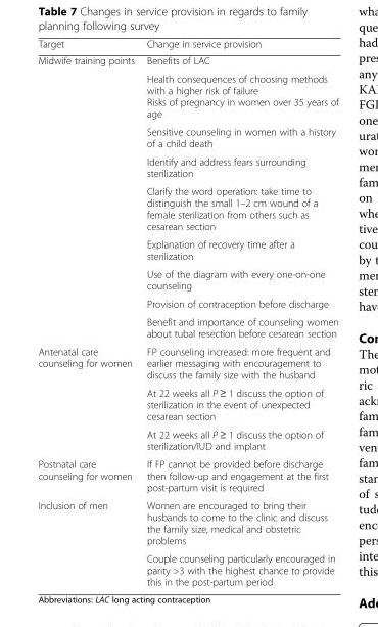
<table><thead><tr><td>Target</td><td>Change in service provision</td></tr></thead><tbody><tr><td rowspan="9">Midwife training points</td><td>Benefits of LAC</td></tr><tr><td>Health consequences of choosing methods with a higher risk of failure Risks of pregnancy in women over 35 years of age</td></tr><tr><td>Sensitive counseling in women with a history of a child death</td></tr><tr><td>Identify and address fears surrounding sterilization</td></tr><tr><td>Clarify the word operation: take time to distinguish the small 1–2 cm wound of a female sterilization from others such as cesarean section</td></tr><tr><td>Explanation of recovery time after a sterilization</td></tr><tr><td>Use of the diagram with every one-on-one counseling</td></tr><tr><td>Provision of contraception before discharge</td></tr><tr><td>Benefit and importance of counseling women about tubal resection before cesarean section</td></tr><tr><td rowspan="3">Antenatal care counseling for women</td><td>FP counseling increased: more frequent and earlier messaging with encouragement to discuss the family size with the husband</td></tr><tr><td>At 22 weeks all P ≥ 1 discuss the option of sterilization in the event of unexpected cesarean section</td></tr><tr><td>At 22 weeks all P ≥ 1 discuss the option of sterilization/IUD and implant</td></tr><tr><td>Postnatal care counseling for women</td><td>If FP cannot be provided before discharge then follow-up and engagement at the first post-partum visit is required</td></tr><tr><td rowspan="2">Inclusion of men</td><td>Women are encouraged to bring their husbands to come to the clinic and discuss the family size, medical and obstetric problems</td></tr><tr><td>Couple counseling particularly encouraged in parity &gt;3 with the highest chance to provide this in the post-partum period</td></tr></tbody></table>